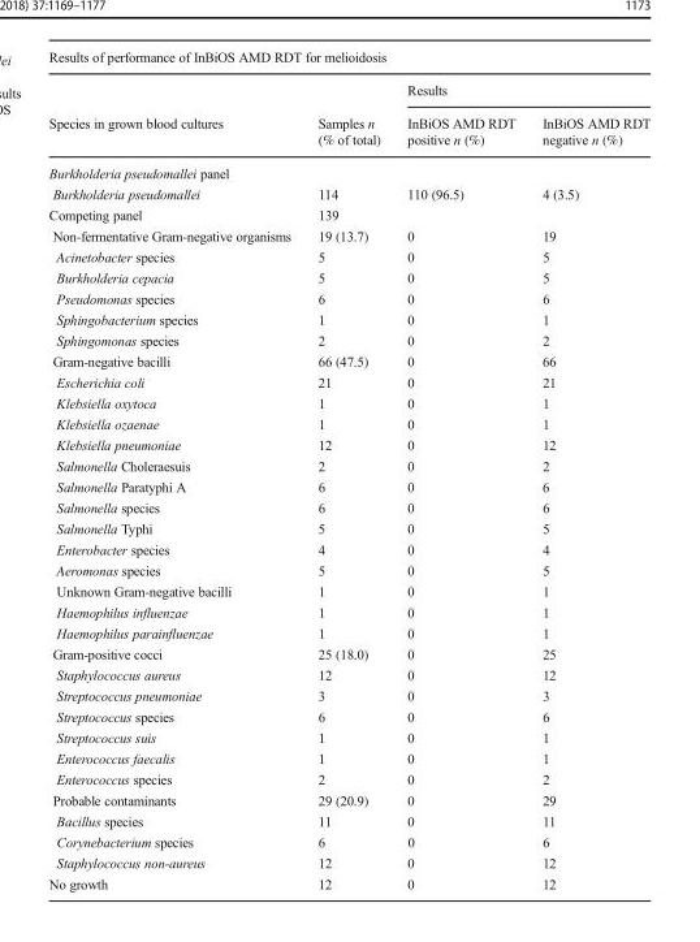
<table><thead><tr><td colspan="4">Results of performance of InBiOS AMD RDT for melioidosis</td></tr><tr><td rowspan="2">Species in grown blood cultures</td><td rowspan="2">Samples n (% of total)</td><td colspan="2">Results</td></tr><tr><td>InBiOS AMD RDT positive n (%)</td><td>InBiOS AMD RDT negative n (%)</td></tr></thead><tbody><tr><td colspan="4">Burkholderia pseudomallei panel</td></tr><tr><td>Burkholderia pseudomallei</td><td>114</td><td>110 (96.5)</td><td>4 (3.5)</td></tr><tr><td>Competing panel</td><td>139</td><td></td><td></td></tr><tr><td>Non-fermentative Gram-negative organisms</td><td>19 (13.7)</td><td>0</td><td>19</td></tr><tr><td>Acinetobacter species</td><td>5</td><td>0</td><td>5</td></tr><tr><td>Burkholderia cepacia</td><td>5</td><td>0</td><td>5</td></tr><tr><td>Pseudomonas species</td><td>6</td><td>0</td><td>6</td></tr><tr><td>Sphingobacterium species</td><td>1</td><td>0</td><td>1</td></tr><tr><td>Sphingomonas species</td><td>2</td><td>0</td><td>2</td></tr><tr><td>Gram-negative bacilli</td><td>66 (47.5)</td><td>0</td><td>66</td></tr><tr><td>Escherichia coli</td><td>21</td><td>0</td><td>21</td></tr><tr><td>Klebsiella oxytoca</td><td>1</td><td>0</td><td>1</td></tr><tr><td>Klebsiella ozaenae</td><td>1</td><td>0</td><td>1</td></tr><tr><td>Klebsiella pneumoniae</td><td>12</td><td>0</td><td>12</td></tr><tr><td>Salmonella Choleraesuis</td><td>2</td><td>0</td><td>2</td></tr><tr><td>Salmonella Paratyphi A</td><td>6</td><td>0</td><td>6</td></tr><tr><td>Salmonella species</td><td>6</td><td>0</td><td>6</td></tr><tr><td>Salmonella Typhi</td><td>5</td><td>0</td><td>5</td></tr><tr><td>Enterobacter species</td><td>4</td><td>0</td><td>4</td></tr><tr><td>Aeromonas species</td><td>5</td><td>0</td><td>5</td></tr><tr><td>Unknown Gram-negative bacilli</td><td>1</td><td>0</td><td>1</td></tr><tr><td>Haemophilus influenzae</td><td>1</td><td>0</td><td>1</td></tr><tr><td>Haemophilus parainfluenzae</td><td>1</td><td>0</td><td>1</td></tr><tr><td>Gram-positive cocci</td><td>25 (18.0)</td><td>0</td><td>25</td></tr><tr><td>Staphylococcus aureus</td><td>12</td><td>0</td><td>12</td></tr><tr><td>Streptococcus pneumoniae</td><td>3</td><td>0</td><td>3</td></tr><tr><td>Streptococcus species</td><td>6</td><td>0</td><td>6</td></tr><tr><td>Streptococcus suis</td><td>1</td><td>0</td><td>1</td></tr><tr><td>Enterococcus faecalis</td><td>1</td><td>0</td><td>1</td></tr><tr><td>Enterococcus species</td><td>2</td><td>0</td><td>2</td></tr><tr><td>Probable contaminants</td><td>29 (20.9)</td><td>0</td><td>29</td></tr><tr><td>Bacillus species</td><td>11</td><td>0</td><td>11</td></tr><tr><td>Corynebacterium species</td><td>6</td><td>0</td><td>6</td></tr><tr><td>Staphylococcus non-aureus</td><td>12</td><td>0</td><td>12</td></tr><tr><td>No growth</td><td>12</td><td>0</td><td>12</td></tr></tbody></table>